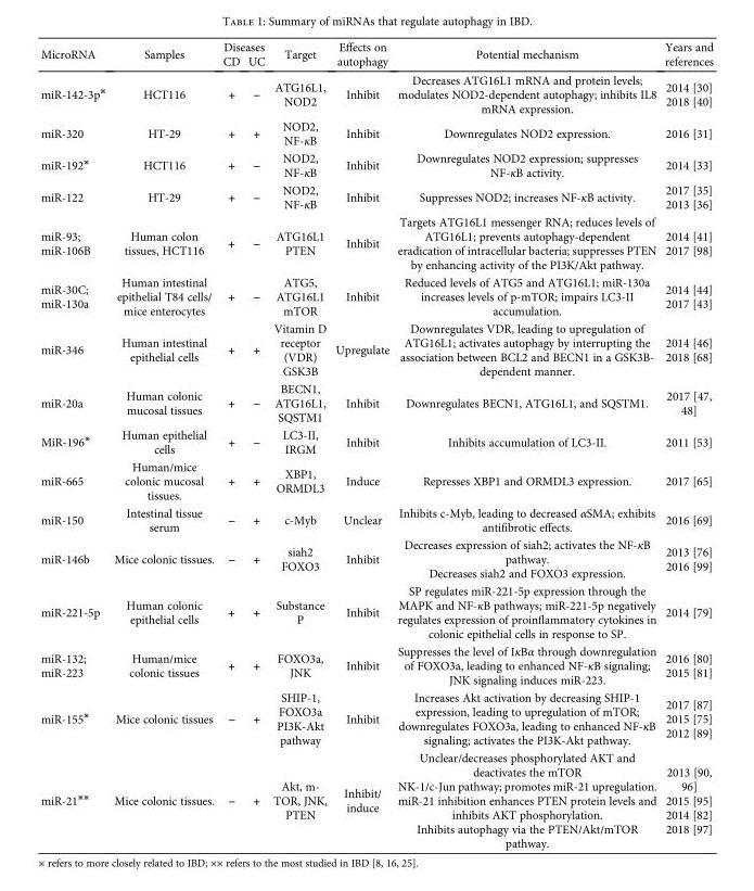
<table><thead><tr><td rowspan="2">MicroRNA</td><td rowspan="2">Samples</td><td colspan="2">Diseases</td><td rowspan="2">Target</td><td rowspan="2">Effects on autophagy</td><td rowspan="2">Potential mechanism</td><td rowspan="2">Years and references</td></tr><tr><td>CD</td><td>UC</td></tr></thead><tbody><tr><td>miR-142-3p<sup>※</sup></td><td>HCT116</td><td>+</td><td>−</td><td>ATG16L1, NOD2</td><td>Inhibit</td><td>Decreases ATG16L1 mRNA and protein levels; modulates NOD2-dependent autophagy; inhibits IL8 mRNA expression.</td><td>2014 [30] 2018 [40]</td></tr><tr><td>miR-320</td><td>HT-29</td><td>+</td><td>+</td><td>NOD2, NF-κB</td><td>Inhibit</td><td>Downregulates NOD2 expression.</td><td>2016 [31]</td></tr><tr><td>miR-192<sup>※</sup></td><td>HCT116</td><td>+</td><td>−</td><td>NOD2, NF-κB</td><td>Inhibit</td><td>Downregulates NOD2 expression; suppresses NF-κB activity.</td><td>2014 [33]</td></tr><tr><td>miR-122</td><td>HT-29</td><td>+</td><td>−</td><td>NOD2, NF-κB</td><td>Inhibit</td><td>Suppresses NOD2; increases NF-κB activity.</td><td>2017 [35] 2013 [36]</td></tr><tr><td>miR-93; miR-106B</td><td>Human colon tissues, HCT116</td><td>+</td><td>−</td><td>ATG16L1 PTEN</td><td>Inhibit</td><td>Targets ATG16L1 messenger RNA; reduces levels of ATG16L1; prevents autophagy-dependent eradication of intracellular bacteria; suppresses PTEN by enhancing activity of the PI3K/Akt pathway.</td><td>2014 [41] 2017 [98]</td></tr><tr><td>miR-30C; miR-130a</td><td>Human intestinal epithelial T84 cells/ mice enterocytes</td><td>+</td><td>−</td><td>ATG5, ATG16L1 mTOR</td><td>Inhibit</td><td>Reduced levels of ATG5 and ATG16L1; miR-130a increases levels of p-mTOR; impairs LC3-II accumulation.</td><td>2014 [44] 2017 [43]</td></tr><tr><td>miR-346</td><td>Human intestinal epithelial cells</td><td>+</td><td>+</td><td>Vitamin D receptor (VDR) GSK3B</td><td>Upregulate</td><td>Downregulates VDR, leading to upregulation of ATG16L1; activates autophagy by interrupting the association between BCL2 and BECN1 in a GSK3B- dependent manner.</td><td>2014 [46] 2018 [68]</td></tr><tr><td>miR-20a</td><td>Human colonic mucosal tissues</td><td>+</td><td>−</td><td>BECN1, ATG16L1, SQSTM1</td><td>Inhibit</td><td>Downregulates BECN1, ATG16L1, and SQSTM1.</td><td>2017 [47, 48]</td></tr><tr><td>MiR-196<sup>※</sup></td><td>Human epithelial cells</td><td>+</td><td>−</td><td>LC3-II, IRGM</td><td>Inhibit</td><td>Inhibits accumulation of LC3-II.</td><td>2011 [53]</td></tr><tr><td>miR-665</td><td>Human/mice colonic mucosal tissues.</td><td>+</td><td>+</td><td>XBP1, ORMDL3</td><td>Induce</td><td>Represses XBP1 and ORMDL3 expression.</td><td>2017 [65]</td></tr><tr><td>miR-150</td><td>Intestinal tissue serum</td><td>−</td><td>+</td><td>c-Myb</td><td>Unclear</td><td>Inhibits c-Myb, leading to decreased αSMA; exhibits antifibrotic effects.</td><td>2016 [69]</td></tr><tr><td>miR-146b</td><td>Mice colonic tissues.</td><td>−</td><td>+</td><td>siah2 FOXO3</td><td>Inhibit</td><td>Decreases expression of siah2; activates the NF-κB pathway. Decreases siah2 and FOXO3 expression.</td><td>2013 [76] 2016 [99]</td></tr><tr><td>miR-221-5p</td><td>Human colonic epithelial cells</td><td>+</td><td>+</td><td>Substance P</td><td>Inhibit</td><td>SP regulates miR-221-5p expression through the MAPK and NF-κB pathways; miR-221-5p negatively regulates expression of proinflammatory cytokines in colonic epithelial cells in response to SP.</td><td>2014 [79]</td></tr><tr><td>miR-132; miR-223</td><td>Human/mice colonic tissues</td><td>+</td><td>+</td><td>FOXO3a, JNK</td><td>Inhibit</td><td>Suppresses the level of IκBα through downregulation of FOXO3a, leading to enhanced NF-κB signaling; JNK signaling induces miR-223.</td><td>2016 [80] 2015 [81]</td></tr><tr><td>miR-155<sup>※</sup></td><td>Mice colonic tissues</td><td>−</td><td>+</td><td>SHIP-1, FOXO3a PI3K-Akt pathway</td><td>Inhibit</td><td>Increases Akt activation by decreasing SHIP-1 expression, leading to upregulation of mTOR; downregulates FOXO3a, leading to enhanced NF-κB signaling; activates the PI3K-Akt pathway.</td><td>2017 [87] 2015 [75] 2012 [89]</td></tr><tr><td>miR-21<sup>※※</sup></td><td>Mice colonic tissues.</td><td>−</td><td>+</td><td>Akt, m- TOR, JNK, PTEN</td><td>Inhibit/ induce</td><td>Unclear/decreases phosphorylated AKT and deactivates the mTOR NK-1/c-Jun pathway; promotes miR-21 upregulation. miR-21 inhibition enhances PTEN protein levels and inhibits AKT phosphorylation. Inhibits autophagy via the PTEN/Akt/mTOR pathway.</td><td>2013 [90, 96] 2015 [95] 2014 [82] 2018 [97]</td></tr></tbody></table>